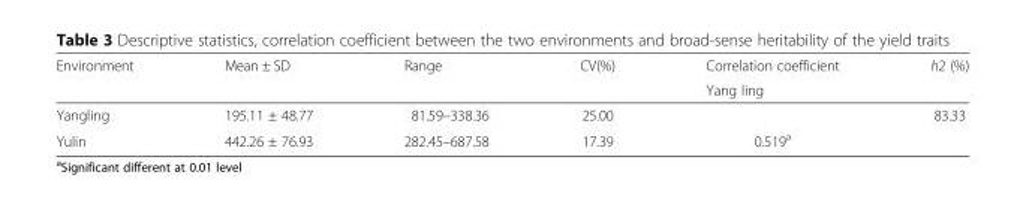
<table><thead><tr><td rowspan="2">Environment</td><td rowspan="2">Mean ± SD</td><td rowspan="2">Range</td><td rowspan="2">CV(%)</td><td rowspan="2">Correlation coefficient Yang ling</td><td rowspan="2">h2 (%)</td></tr><tr></tr></thead><tbody><tr><td>Yangling</td><td>195.11 ± 48.77</td><td>81.59–338.36</td><td>25.00</td><td></td><td rowspan="2">83.33</td></tr><tr><td>Yulin</td><td>442.26 ± 76.93</td><td>282.45–687.58</td><td>17.39</td><td>0.519<sup>a</sup></td></tr></tbody></table>